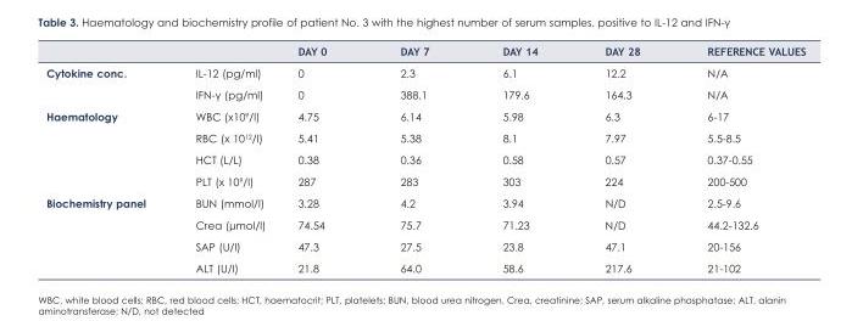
<table><thead><tr><td></td><td></td><td>DAY 0</td><td>DAY 7</td><td>DAY 14</td><td>DAY 28</td><td>REFERENCE VALUES</td></tr></thead><tbody><tr><td rowspan="2">Cytokine conc.</td><td>IL-12 (pg/ml)</td><td>0</td><td>2.3</td><td>6.1</td><td>12.2</td><td>N/A</td></tr><tr><td>IFN-γ (pg/ml)</td><td>0</td><td>388.1</td><td>179.6</td><td>164.3</td><td>N/A</td></tr><tr><td rowspan="4">Haematology</td><td>WBC (x109/l)</td><td>4.75</td><td>6.14</td><td>5.98</td><td>6.3</td><td>6-17</td></tr><tr><td>RBC (x 1012/l)</td><td>5.41</td><td>5.38</td><td>8.1</td><td>7.97</td><td>5.5-8.5</td></tr><tr><td>HCT (L/L)</td><td>0.38</td><td>0.36</td><td>0.58</td><td>0.57</td><td>0.37-0.55</td></tr><tr><td>PLT (x 109/l)</td><td>287</td><td>283</td><td>303</td><td>224</td><td>200-500</td></tr><tr><td rowspan="4">Biochemistry panel</td><td>BUN (mmol/l)</td><td>3.28</td><td>4.2</td><td>3.94</td><td>N/D</td><td>2.5-9.6</td></tr><tr><td>Crea (μmol/l)</td><td>74.54</td><td>75.7</td><td>71.23</td><td>N/D</td><td>44.2-132.6</td></tr><tr><td>SAP (U/l)</td><td>47.3</td><td>27.5</td><td>23.8</td><td>47.1</td><td>20-156</td></tr><tr><td>ALT (U/l)</td><td>21.8</td><td>64.0</td><td>58.6</td><td>217.6</td><td>21-102</td></tr></tbody></table>